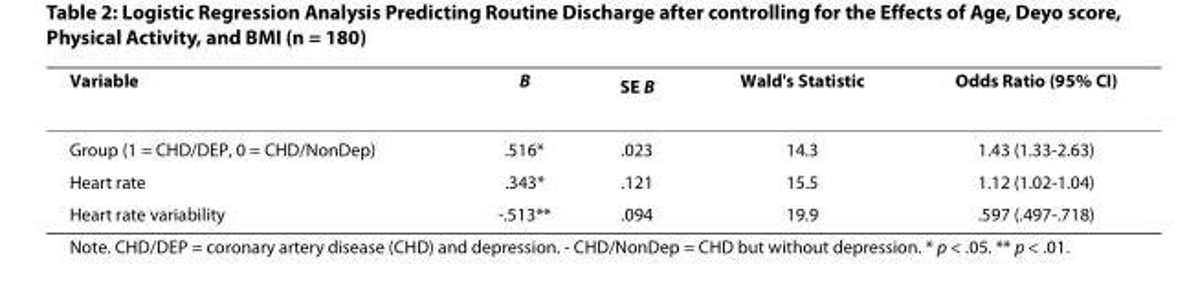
<table><thead><tr><td>Variable</td><td>B</td><td>SE B</td><td>Wald&#x27;s Statistic</td><td>Odds Ratio (95% CI)</td></tr></thead><tbody><tr><td>Group (1 = CHD/DEP, 0 = CHD/NonDep)</td><td>.516*</td><td>.023</td><td>14.3</td><td>1.43 (1.33-2.63)</td></tr><tr><td>Heart rate</td><td>.343*</td><td>.121</td><td>15.5</td><td>1.12 (1.02-1.04)</td></tr><tr><td>Heart rate variability</td><td>-.513**</td><td>.094</td><td>19.9</td><td>.597 (.497-.718)</td></tr></tbody></table>